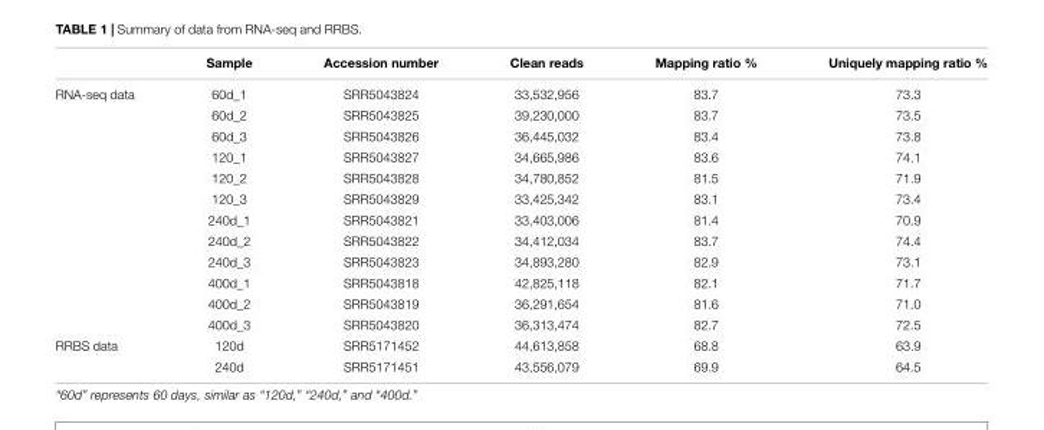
<table><thead><tr><td></td><td>Sample</td><td>Accession number</td><td>Clean reads</td><td>Mapping ratio %</td><td>Uniquely mapping ratio %</td></tr></thead><tbody><tr><td rowspan="12">RNA-seq data</td><td>60d_1</td><td>SRR5043824</td><td>33,532,956</td><td>83.7</td><td>73.3</td></tr><tr><td>60d_2</td><td>SRR5043825</td><td>39,230,000</td><td>83.7</td><td>73.5</td></tr><tr><td>60d_3</td><td>SRR5043826</td><td>36,445,032</td><td>83.4</td><td>73.8</td></tr><tr><td>120_1</td><td>SRR5043827</td><td>34,665,986</td><td>83.6</td><td>74.1</td></tr><tr><td>120_2</td><td>SRR5043828</td><td>34,780,852</td><td>81.5</td><td>71.9</td></tr><tr><td>120_3</td><td>SRR5043829</td><td>33,425,342</td><td>83.1</td><td>73.4</td></tr><tr><td>240d_1</td><td>SRR5043821</td><td>33,403,006</td><td>81.4</td><td>70.9</td></tr><tr><td>240d_2</td><td>SRR5043822</td><td>34,412,034</td><td>83.7</td><td>74.4</td></tr><tr><td>240d_3</td><td>SRR5043823</td><td>34,893,280</td><td>82.9</td><td>73.1</td></tr><tr><td>400d_1</td><td>SRR5043818</td><td>42,825,118</td><td>82.1</td><td>71.7</td></tr><tr><td>400d_2</td><td>SRR5043819</td><td>36,291,654</td><td>81.6</td><td>71.0</td></tr><tr><td>400d_3</td><td>SRR5043820</td><td>36,313,474</td><td>82.7</td><td>72.5</td></tr><tr><td rowspan="2">RRBS data</td><td>120d</td><td>SRR5171452</td><td>44,613,858</td><td>68.8</td><td>63.9</td></tr><tr><td>240d</td><td>SRR5171451</td><td>43,556,079</td><td>69.9</td><td>64.5</td></tr></tbody></table>